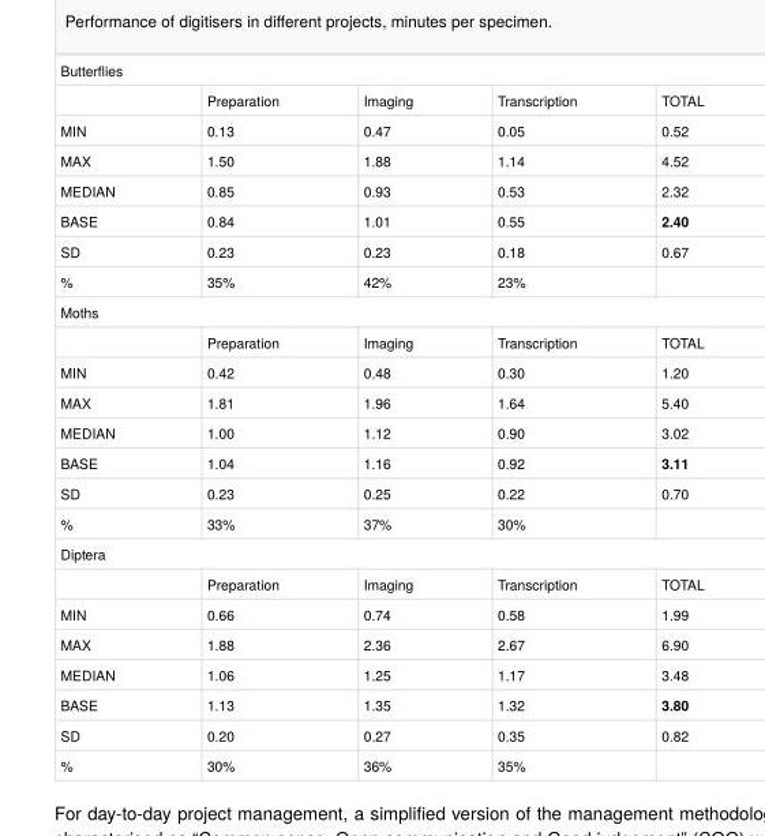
<table><tbody><tr><td colspan="5">Butterflies</td></tr><tr><td></td><td>Preparation</td><td>Imaging</td><td>Transcription</td><td>TOTAL</td></tr><tr><td>MIN</td><td>0.13</td><td>0.47</td><td>0.05</td><td>0.52</td></tr><tr><td>MAX</td><td>1.50</td><td>1.88</td><td>1.14</td><td>4.52</td></tr><tr><td>MEDIAN</td><td>0.85</td><td>0.93</td><td>0.53</td><td>2.32</td></tr><tr><td>BASE</td><td>0.84</td><td>1.01</td><td>0.55</td><td>2.40</td></tr><tr><td>SD</td><td>0.23</td><td>0.23</td><td>0.18</td><td>0.67</td></tr><tr><td>%</td><td>35%</td><td>42%</td><td>23%</td><td></td></tr><tr><td colspan="5">Moths</td></tr><tr><td></td><td>Preparation</td><td>Imaging</td><td>Transcription</td><td>TOTAL</td></tr><tr><td>MIN</td><td>0.42</td><td>0.48</td><td>0.30</td><td>1.20</td></tr><tr><td>MAX</td><td>1.81</td><td>1.96</td><td>1.64</td><td>5.40</td></tr><tr><td>MEDIAN</td><td>1.00</td><td>1.12</td><td>0.90</td><td>3.02</td></tr><tr><td>BASE</td><td>1.04</td><td>1.16</td><td>0.92</td><td>3.11</td></tr><tr><td>SD</td><td>0.23</td><td>0.25</td><td>0.22</td><td>0.70</td></tr><tr><td>%</td><td>33%</td><td>37%</td><td>30%</td><td></td></tr><tr><td colspan="5">Diptera</td></tr><tr><td></td><td>Preparation</td><td>Imaging</td><td>Transcription</td><td>TOTAL</td></tr><tr><td>MIN</td><td>0.66</td><td>0.74</td><td>0.58</td><td>1.99</td></tr><tr><td>MAX</td><td>1.88</td><td>2.36</td><td>2.67</td><td>6.90</td></tr><tr><td>MEDIAN</td><td>1.06</td><td>1.25</td><td>1.17</td><td>3.48</td></tr><tr><td>BASE</td><td>1.13</td><td>1.35</td><td>1.32</td><td>3.80</td></tr><tr><td>SD</td><td>0.20</td><td>0.27</td><td>0.35</td><td>0.82</td></tr><tr><td>%</td><td>30%</td><td>36%</td><td>35%</td><td></td></tr></tbody></table>